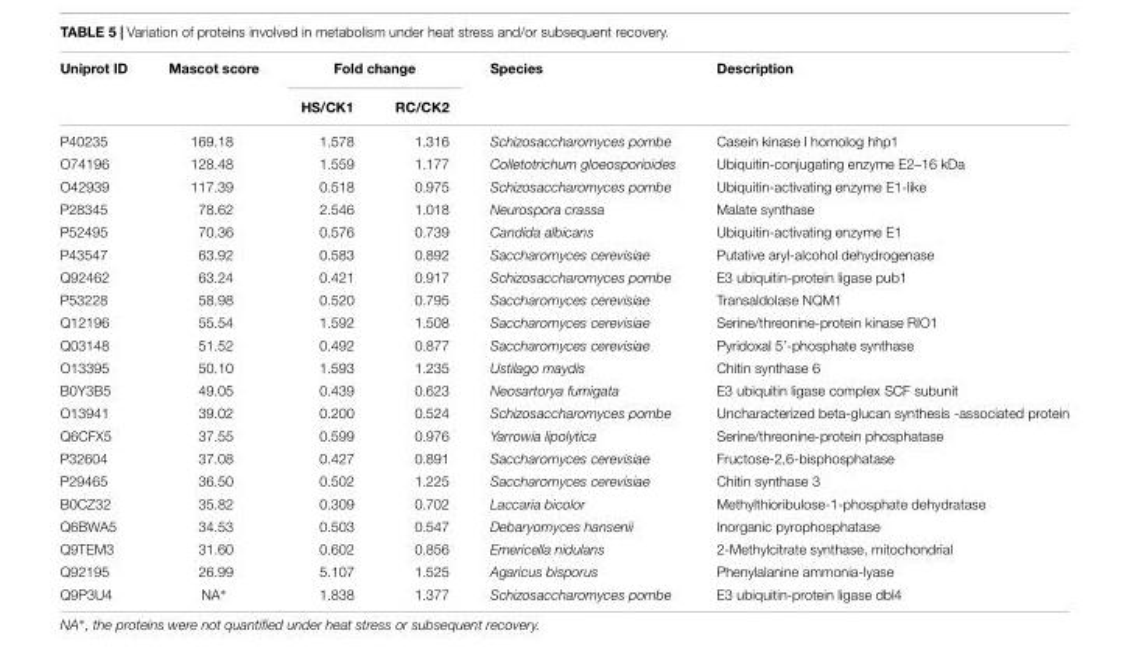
<table><thead><tr><td rowspan="2">Uniprot ID</td><td rowspan="2">Mascot score</td><td colspan="2">Fold change</td><td rowspan="2">Species</td><td rowspan="2">Description</td></tr><tr><td>HS/CK1</td><td>RC/CK2</td></tr></thead><tbody><tr><td>P40235</td><td>169.18</td><td>1.578</td><td>1.316</td><td>Schizosaccharomyces pombe</td><td>Casein kinase I homolog hhp1</td></tr><tr><td>O74196</td><td>128.48</td><td>1.559</td><td>1.177</td><td>Colletotrichum gloeosporioides</td><td>Ubiquitin-conjugating enzyme E2–16 kDa</td></tr><tr><td>O42939</td><td>117.39</td><td>0.518</td><td>0.975</td><td>Schizosaccharomyces pombe</td><td>Ubiquitin-activating enzyme E1-like</td></tr><tr><td>P28345</td><td>78.62</td><td>2.546</td><td>1.018</td><td>Neurospora crassa</td><td>Malate synthase</td></tr><tr><td>P52495</td><td>70.36</td><td>0.576</td><td>0.739</td><td>Candida albicans</td><td>Ubiquitin-activating enzyme E1</td></tr><tr><td>P43547</td><td>63.92</td><td>0.583</td><td>0.892</td><td>Saccharomyces cerevisiae</td><td>Putative aryl-alcohol dehydrogenase</td></tr><tr><td>Q92462</td><td>63.24</td><td>0.421</td><td>0.917</td><td>Schizosaccharomyces pombe</td><td>E3 ubiquitin-protein ligase pub1</td></tr><tr><td>P53228</td><td>58.98</td><td>0.520</td><td>0.795</td><td>Saccharomyces cerevisiae</td><td>Transaldolase NQM1</td></tr><tr><td>Q12196</td><td>55.54</td><td>1.592</td><td>1.508</td><td>Saccharomyces cerevisiae</td><td>Serine/threonine-protein kinase RIO1</td></tr><tr><td>Q03148</td><td>51.52</td><td>0.492</td><td>0.877</td><td>Saccharomyces cerevisiae</td><td>Pyridoxal 5’-phosphate synthase</td></tr><tr><td>O13395</td><td>50.10</td><td>1.593</td><td>1.235</td><td>Ustilago maydis</td><td>Chitin synthase 6</td></tr><tr><td>B0Y3B5</td><td>49.05</td><td>0.439</td><td>0.623</td><td>Neosartorya fumigata</td><td>E3 ubiquitin ligase complex SCF subunit</td></tr><tr><td>O13941</td><td>39.02</td><td>0.200</td><td>0.524</td><td>Schizosaccharomyces pombe</td><td>Uncharacterized beta-glucan synthesis -associated protein</td></tr><tr><td>Q6CFX5</td><td>37.55</td><td>0.599</td><td>0.976</td><td>Yarrowia lipolytica</td><td>Serine/threonine-protein phosphatase</td></tr><tr><td>P32604</td><td>37.08</td><td>0.427</td><td>0.891</td><td>Saccharomyces cerevisiae</td><td>Fructose-2,6-bisphosphatase</td></tr><tr><td>P29465</td><td>36.50</td><td>0.502</td><td>1.225</td><td>Saccharomyces cerevisiae</td><td>Chitin synthase 3</td></tr><tr><td>B0CZ32</td><td>35.82</td><td>0.309</td><td>0.702</td><td>Laccaria bicolor</td><td>Methylthioribulose-1-phosphate dehydratase</td></tr><tr><td>Q6BWA5</td><td>34.53</td><td>0.503</td><td>0.547</td><td>Debaryomyces hansenii</td><td>Inorganic pyrophosphatase</td></tr><tr><td>Q9TEM3</td><td>31.60</td><td>0.602</td><td>0.856</td><td>Emericella nidulans</td><td>2-Methylcitrate synthase, mitochondrial</td></tr><tr><td>Q92195</td><td>26.99</td><td>5.107</td><td>1.525</td><td>Agaricus bisporus</td><td>Phenylalanine ammonia-lyase</td></tr><tr><td>Q9P3U4</td><td>NA∗</td><td>1.838</td><td>1.377</td><td>Schizosaccharomyces pombe</td><td>E3 ubiquitin-protein ligase dbl4</td></tr></tbody></table>